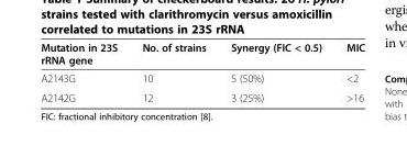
<table><thead><tr><td>Mutation in 23S rRNA gene</td><td>No. of strains</td><td>Synergy (FIC &lt; 0.5)</td><td>MIC</td></tr></thead><tbody><tr><td>A2143G</td><td>10</td><td>5 (50%)</td><td>&lt;2</td></tr><tr><td>A2142G</td><td>12</td><td>3 (25%)</td><td>&gt;16</td></tr></tbody></table>